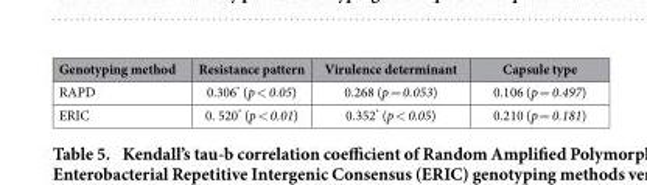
<table><thead><tr><td>Genotyping method</td><td>Resistance pattern</td><td>Virulence determinant</td><td>Capsule type</td></tr></thead><tbody><tr><td>RAPD</td><td>0.306* (p &lt; 0.05)</td><td>0.268 (p = 0.053)</td><td>0.106 (p = 0.497)</td></tr><tr><td>ERIC</td><td>0. 520* (p &lt; 0.01)</td><td>0.352* (p &lt; 0.05)</td><td>0.210 (p = 0.181)</td></tr></tbody></table>